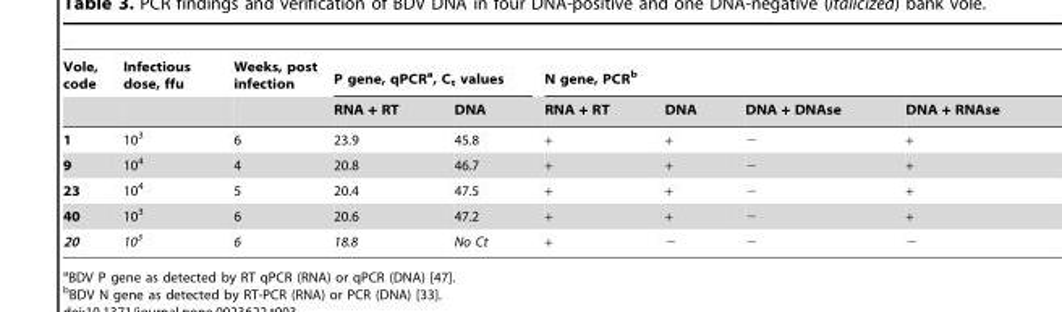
<table><thead><tr><td rowspan="2">Vole, code</td><td rowspan="2">Infectious dose, ffu</td><td rowspan="2">Weeks, post infection</td><td colspan="2">P gene, qPCR<sup>a</sup>, C<sub>t</sub> values</td><td colspan="4">N gene, PCR<sup>b</sup></td></tr><tr><td>RNA + RT</td><td>DNA</td><td>RNA + RT</td><td>DNA</td><td>DNA + DNAse</td><td>DNA + RNAse</td></tr></thead><tbody><tr><td>1</td><td>10<sup>3</sup></td><td>6</td><td>23.9</td><td>45.8</td><td>+</td><td>+</td><td>−</td><td>+</td></tr><tr><td>9</td><td>10<sup>4</sup></td><td>4</td><td>20.8</td><td>46.7</td><td>+</td><td>+</td><td>−</td><td>+</td></tr><tr><td>23</td><td>10<sup>4</sup></td><td>5</td><td>20.4</td><td>47.5</td><td>+</td><td>+</td><td>−</td><td>+</td></tr><tr><td>40</td><td>10<sup>3</sup></td><td>6</td><td>20.6</td><td>47.2</td><td>+</td><td>+</td><td>−</td><td>+</td></tr><tr><td>20</td><td>10<sup>3</sup></td><td>6</td><td>18.8</td><td>No Ct</td><td>+</td><td>−</td><td>−</td><td>−</td></tr></tbody></table>